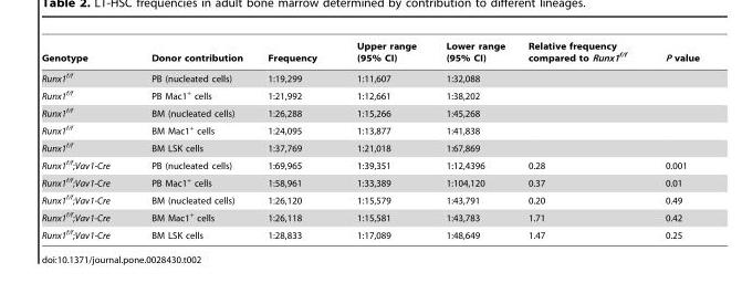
<table><thead><tr><td>Genotype</td><td>Donor contribution</td><td>Frequency</td><td>Upper range (95% CI)</td><td>Lower range (95% CI)</td><td>Relative frequency compared to Runx1<sup>f/f</sup></td><td>P value</td></tr></thead><tbody><tr><td>Runx1<sup>f/f</sup></td><td>PB (nucleated cells)</td><td>1:19,299</td><td>1:11,607</td><td>1:32,088</td><td></td><td></td></tr><tr><td>Runx1<sup>f/f</sup></td><td>PB Mac1<sup>+</sup> cells</td><td>1:21,992</td><td>1:12,661</td><td>1:38,202</td><td></td><td></td></tr><tr><td>Runx1<sup>f/f</sup></td><td>BM (nucleated cells)</td><td>1:26,288</td><td>1:15,266</td><td>1:45,268</td><td></td><td></td></tr><tr><td>Runx1<sup>f/f</sup></td><td>BM Mac1<sup>+</sup> cells</td><td>1:24,095</td><td>1:13,877</td><td>1:41,838</td><td></td><td></td></tr><tr><td>Runx1<sup>f/f</sup></td><td>BM LSK cells</td><td>1:37,769</td><td>1:21,018</td><td>1:67,869</td><td></td><td></td></tr><tr><td>Runx1<sup>f/f</sup>;Vav1-Cre</td><td>PB (nucleated cells)</td><td>1:69,965</td><td>1:39,351</td><td>1:12,4396</td><td>0.28</td><td>0.001</td></tr><tr><td>Runx1<sup>f/f</sup>;Vav1-Cre</td><td>PB Mac1<sup>+</sup> cells</td><td>1:58,961</td><td>1:33,389</td><td>1:104,120</td><td>0.37</td><td>0.01</td></tr><tr><td>Runx1<sup>f/f</sup>;Vav1-Cre</td><td>BM (nucleated cells)</td><td>1:26,120</td><td>1:15,579</td><td>1:43,791</td><td>0.20</td><td>0.49</td></tr><tr><td>Runx1<sup>f/f</sup>;Vav1-Cre</td><td>BM Mac1<sup>+</sup> cells</td><td>1:26,118</td><td>1:15,581</td><td>1:43,783</td><td>1.71</td><td>0.42</td></tr><tr><td>Runx1<sup>f/f</sup>;Vav1-Cre</td><td>BM LSK cells</td><td>1:28,833</td><td>1:17,089</td><td>1:48,649</td><td>1.47</td><td>0.25</td></tr></tbody></table>